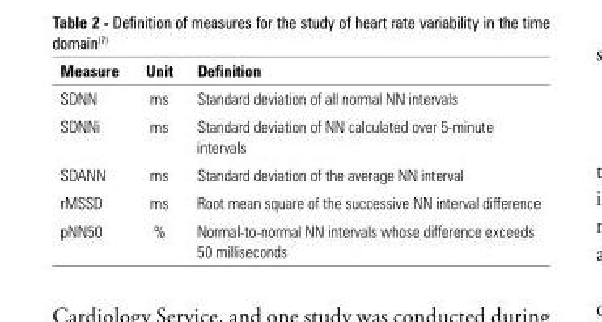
<table><thead><tr><td>Measure</td><td>Unit</td><td>Definition</td></tr></thead><tbody><tr><td>SDNN</td><td>ms</td><td>Standard deviation of all normal NN intervals</td></tr><tr><td>SDNNi</td><td>ms</td><td>Standard deviation of NN calculated over 5-minute intervals</td></tr><tr><td>SDANN</td><td>ms</td><td>Standard deviation of the average NN interval</td></tr><tr><td>rMSSD</td><td>ms</td><td>Root mean square of the successive NN interval difference</td></tr><tr><td>pNN50</td><td>%</td><td>Normal-to-normal NN intervals whose difference exceeds 50 milliseconds</td></tr></tbody></table>